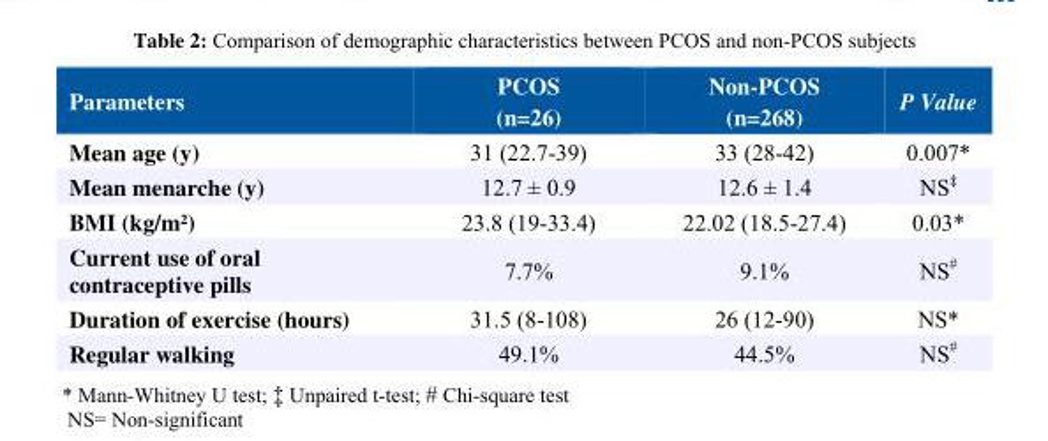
<table><thead><tr><td>Parameters</td><td>PCOS (n=26)</td><td>Non-PCOS (n=268)</td><td>P Value</td></tr></thead><tbody><tr><td>Mean age (y)</td><td>31 (22.7-39)</td><td>33 (28-42)</td><td>0.007*</td></tr><tr><td>Mean menarche (y)</td><td>12.7 ± 0.9</td><td>12.6 ± 1.4</td><td>NS‡</td></tr><tr><td>BMI (kg/m²)</td><td>23.8 (19-33.4)</td><td>22.02 (18.5-27.4)</td><td>0.03*</td></tr><tr><td>Current use of oral contraceptive pills</td><td>7.7%</td><td>9.1%</td><td>NS#</td></tr><tr><td>Duration of exercise (hours)</td><td>31.5 (8-108)</td><td>26 (12-90)</td><td>NS*</td></tr><tr><td>Regular walking</td><td>49.1%</td><td>44.5%</td><td>NS#</td></tr></tbody></table>